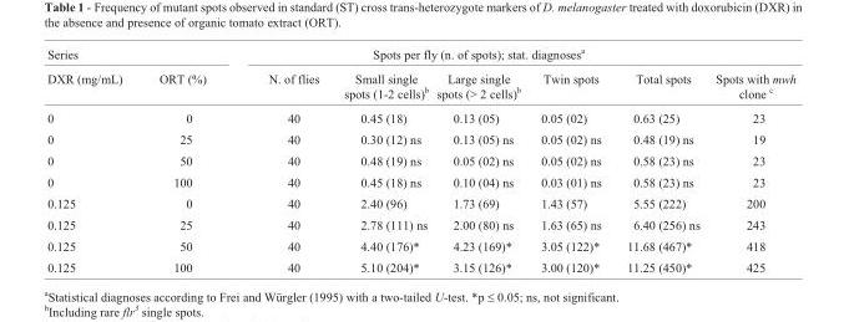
<table><thead><tr><td colspan="2">Series</td><td colspan="6">Spots per fly (n. of spots); stat. diagnoses<sup>a</sup></td></tr><tr><td>DXR (mg/mL)</td><td>ORT (%)</td><td>N. of flies</td><td>Small single spots (1-2 cells)<sup>b</sup></td><td>Large single spots (&gt; 2 cells)<sup>b</sup></td><td>Twin spots</td><td>Total spots</td><td>Spots with mwh clone <sup>c</sup></td></tr></thead><tbody><tr><td>0</td><td>0</td><td>40</td><td>0.45 (18)</td><td>0.13 (05)</td><td>0.05 (02)</td><td>0.63 (25)</td><td>23</td></tr><tr><td>0</td><td>25</td><td>40</td><td>0.30 (12) ns</td><td>0.13 (05) ns</td><td>0.05 (02) ns</td><td>0.48 (19) ns</td><td>19</td></tr><tr><td>0</td><td>50</td><td>40</td><td>0.48 (19) ns</td><td>0.05 (02) ns</td><td>0.05 (02) ns</td><td>0.58 (23) ns</td><td>23</td></tr><tr><td>0</td><td>100</td><td>40</td><td>0.45 (18) ns</td><td>0.10 (04) ns</td><td>0.03 (01) ns</td><td>0.58 (23) ns</td><td>23</td></tr><tr><td>0.125</td><td>0</td><td>40</td><td>2.40 (96)</td><td>1.73 (69)</td><td>1.43 (57)</td><td>5.55 (222)</td><td>200</td></tr><tr><td>0.125</td><td>25</td><td>40</td><td>2.78 (111) ns</td><td>2.00 (80) ns</td><td>1.63 (65) ns</td><td>6.40 (256) ns</td><td>243</td></tr><tr><td>0.125</td><td>50</td><td>40</td><td>4.40 (176)*</td><td>4.23 (169)*</td><td>3.05 (122)*</td><td>11.68 (467)*</td><td>418</td></tr><tr><td>0.125</td><td>100</td><td>40</td><td>5.10 (204)*</td><td>3.15 (126)*</td><td>3.00 (120)*</td><td>11.25 (450)*</td><td>425</td></tr></tbody></table>